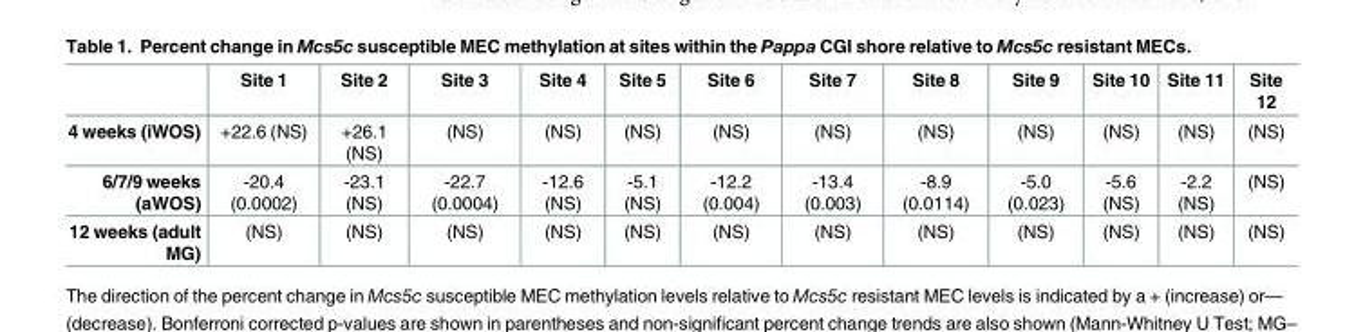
<table><thead><tr><td></td><td>Site 1</td><td>Site 2</td><td>Site 3</td><td>Site 4</td><td>Site 5</td><td>Site 6</td><td>Site 7</td><td>Site 8</td><td>Site 9</td><td>Site 10</td><td>Site 11</td><td>Site 12</td></tr></thead><tbody><tr><td>4 weeks (iWOS)</td><td>+22.6 (NS)</td><td>+26.1 (NS)</td><td>(NS)</td><td>(NS)</td><td>(NS)</td><td>(NS)</td><td>(NS)</td><td>(NS)</td><td>(NS)</td><td>(NS)</td><td>(NS)</td><td>(NS)</td></tr><tr><td>6/7/9 weeks (aWOS)</td><td>-20.4 (0.0002)</td><td>-23.1 (NS)</td><td>-22.7 (0.0004)</td><td>-12.6 (NS)</td><td>-5.1 (NS)</td><td>-12.2 (0.004)</td><td>-13.4 (0.003)</td><td>-8.9 (0.0114)</td><td>-5.0 (0.023)</td><td>-5.6 (NS)</td><td>-2.2 (NS)</td><td>(NS)</td></tr><tr><td>12 weeks (adult MG)</td><td>(NS)</td><td>(NS)</td><td>(NS)</td><td>(NS)</td><td>(NS)</td><td>(NS)</td><td>(NS)</td><td>(NS)</td><td>(NS)</td><td>(NS)</td><td>(NS)</td><td>(NS)</td></tr></tbody></table>